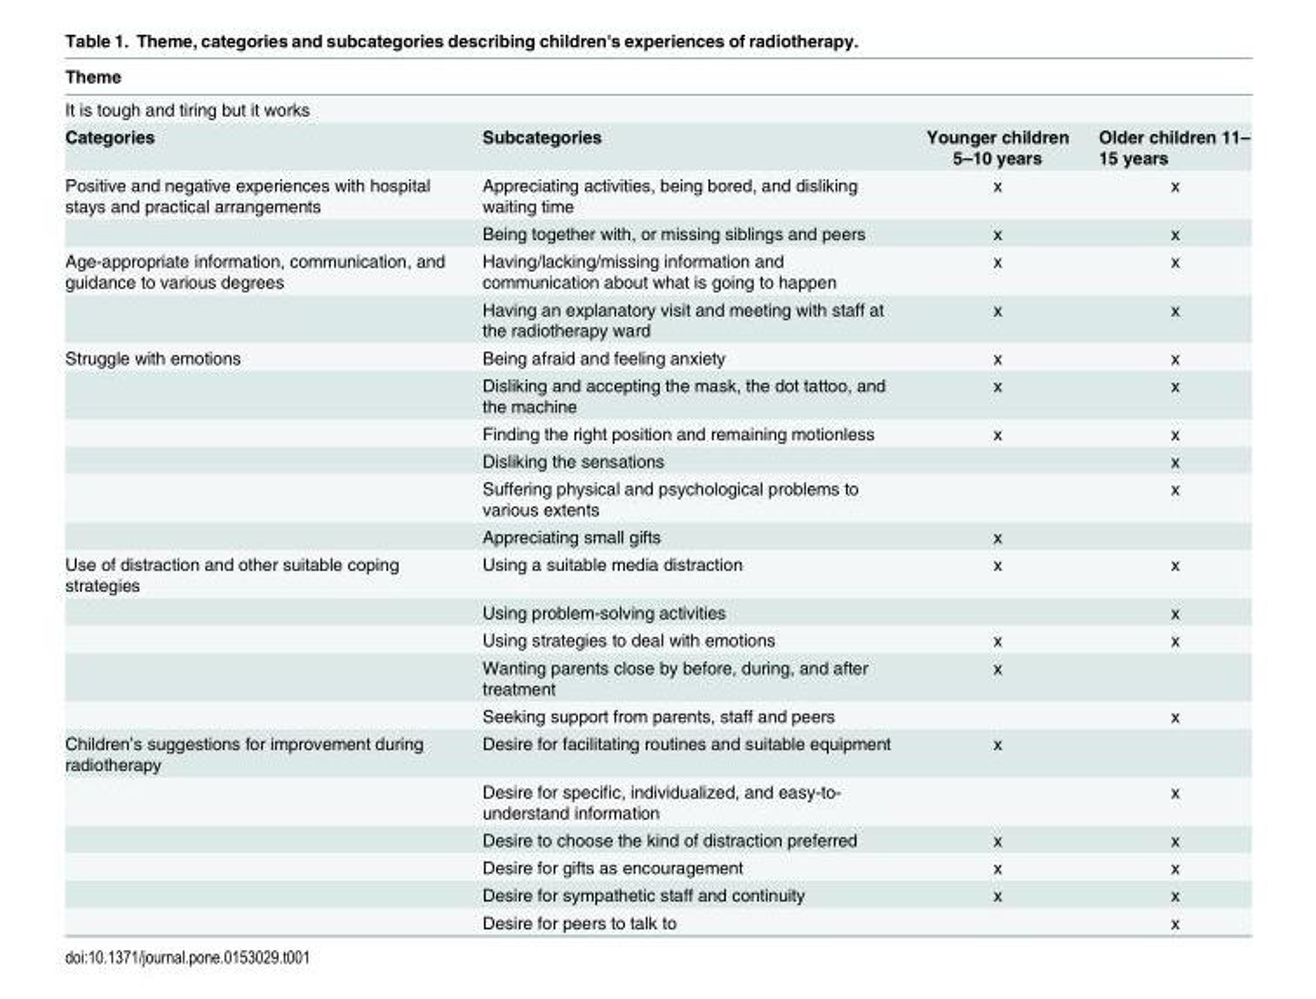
<table><thead><tr><td rowspan="2" colspan="4">Theme It is tough and tiring but it works</td></tr><tr></tr><tr><td>Categories</td><td>Subcategories</td><td>Younger children 5–10 years</td><td>Older children 11– 15 years</td></tr></thead><tbody><tr><td rowspan="2">Positive and negative experiences with hospital stays and practical arrangements</td><td>Appreciating activities, being bored, and disliking waiting time</td><td>x</td><td>x</td></tr><tr><td>Being together with, or missing siblings and peers</td><td>x</td><td>x</td></tr><tr><td rowspan="2">Age-appropriate information, communication, and guidance to various degrees</td><td>Having/lacking/missing information and communication about what is going to happen</td><td>x</td><td>x</td></tr><tr><td>Having an explanatory visit and meeting with staff at the radiotherapy ward</td><td>x</td><td>x</td></tr><tr><td rowspan="6">Struggle with emotions</td><td>Being afraid and feeling anxiety</td><td>x</td><td>x</td></tr><tr><td>Disliking and accepting the mask, the dot tattoo, and the machine</td><td>x</td><td>x</td></tr><tr><td>Finding the right position and remaining motionless</td><td>x</td><td>x</td></tr><tr><td>Disliking the sensations</td><td></td><td>x</td></tr><tr><td>Suffering physical and psychological problems to various extents</td><td></td><td>x</td></tr><tr><td>Appreciating small gifts</td><td>x</td><td></td></tr><tr><td rowspan="5">Use of distraction and other suitable coping strategies</td><td>Using a suitable media distraction</td><td>x</td><td>x</td></tr><tr><td>Using problem-solving activities</td><td></td><td>x</td></tr><tr><td>Using strategies to deal with emotions</td><td>x</td><td>x</td></tr><tr><td>Wanting parents close by before, during, and after treatment</td><td>x</td><td></td></tr><tr><td>Seeking support from parents, staff and peers</td><td></td><td>x</td></tr><tr><td rowspan="6">Children’s suggestions for improvement during radiotherapy</td><td>Desire for facilitating routines and suitable equipment</td><td>x</td><td></td></tr><tr><td>Desire for specific, individualized, and easy-to- understand information</td><td></td><td>x</td></tr><tr><td>Desire to choose the kind of distraction preferred</td><td>x</td><td>x</td></tr><tr><td>Desire for gifts as encouragement</td><td>x</td><td>x</td></tr><tr><td>Desire for sympathetic staff and continuity</td><td>x</td><td>x</td></tr><tr><td>Desire for peers to talk to</td><td></td><td>x</td></tr></tbody></table>